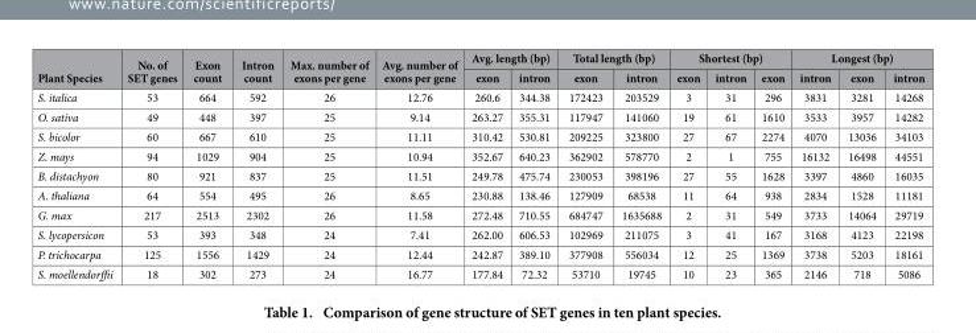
<table><thead><tr><td rowspan="2">Plant Species</td><td rowspan="2">No. of SET genes</td><td rowspan="2">Exon count</td><td rowspan="2">Intron count</td><td rowspan="2">Max. number of exons per gene</td><td rowspan="2">Avg. number of exons per gene</td><td colspan="2">Avg. length (bp)</td><td colspan="2">Total length (bp)</td><td colspan="3">Shortest (bp)</td><td colspan="3">Longest (bp)</td></tr><tr><td>exon</td><td>intron</td><td>exon</td><td>intron</td><td>exon</td><td>intron</td><td>exon</td><td>intron</td><td>exon</td><td>intron</td></tr></thead><tbody><tr><td>S. italica</td><td>53</td><td>664</td><td>592</td><td>26</td><td>12.76</td><td>260.6</td><td>344.38</td><td>172423</td><td>203529</td><td>3</td><td>31</td><td>296</td><td>3831</td><td>3281</td><td>14268</td></tr><tr><td>O. sativa</td><td>49</td><td>448</td><td>397</td><td>25</td><td>9.14</td><td>263.27</td><td>355.31</td><td>117947</td><td>141060</td><td>19</td><td>61</td><td>1610</td><td>3533</td><td>3957</td><td>14282</td></tr><tr><td>S. bicolor</td><td>60</td><td>667</td><td>610</td><td>25</td><td>11.11</td><td>310.42</td><td>530.81</td><td>209225</td><td>323800</td><td>27</td><td>67</td><td>2274</td><td>4070</td><td>13036</td><td>34103</td></tr><tr><td>Z. mays</td><td>94</td><td>1029</td><td>904</td><td>25</td><td>10.94</td><td>352.67</td><td>640.23</td><td>362902</td><td>578770</td><td>2</td><td>1</td><td>755</td><td>16132</td><td>16498</td><td>44551</td></tr><tr><td>B. distachyon</td><td>80</td><td>921</td><td>837</td><td>25</td><td>11.51</td><td>249.78</td><td>475.74</td><td>230053</td><td>398196</td><td>27</td><td>55</td><td>1628</td><td>3397</td><td>4860</td><td>16035</td></tr><tr><td>A. thaliana</td><td>64</td><td>554</td><td>495</td><td>26</td><td>8.65</td><td>230.88</td><td>138.46</td><td>127909</td><td>68538</td><td>11</td><td>64</td><td>938</td><td>2834</td><td>1528</td><td>11181</td></tr><tr><td>G. max</td><td>217</td><td>2513</td><td>2302</td><td>26</td><td>11.58</td><td>272.48</td><td>710.55</td><td>684747</td><td>1635688</td><td>2</td><td>31</td><td>549</td><td>3733</td><td>14064</td><td>29719</td></tr><tr><td>S. lycopersicon</td><td>53</td><td>393</td><td>348</td><td>24</td><td>7.41</td><td>262.00</td><td>606.53</td><td>102969</td><td>211075</td><td>3</td><td>41</td><td>167</td><td>3168</td><td>4123</td><td>22198</td></tr><tr><td>P. trichocarpa</td><td>125</td><td>1556</td><td>1429</td><td>24</td><td>12.44</td><td>242.87</td><td>389.10</td><td>377908</td><td>556034</td><td>12</td><td>25</td><td>1369</td><td>3738</td><td>5203</td><td>18161</td></tr><tr><td>S. moellendorffii</td><td>18</td><td>302</td><td>273</td><td>24</td><td>16.77</td><td>177.84</td><td>72.32</td><td>53710</td><td>19745</td><td>10</td><td>23</td><td>365</td><td>2146</td><td>718</td><td>5086</td></tr></tbody></table>